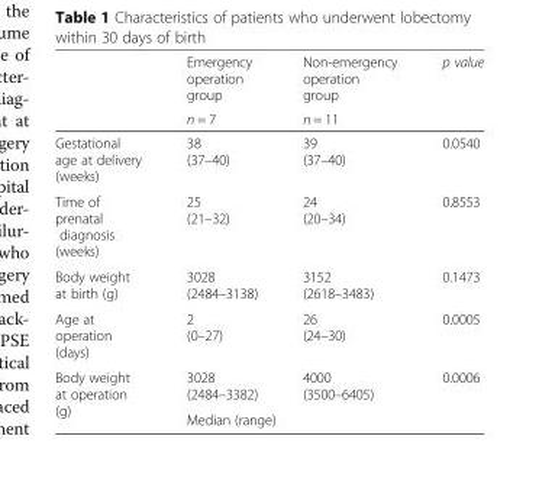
<table><thead><tr><td rowspan="2"></td><td rowspan="2">Emergency operation group n = 7</td><td rowspan="2">Non-emergency operation group n = 11</td><td rowspan="2">p value</td></tr><tr></tr></thead><tbody><tr><td>Gestational age at delivery (weeks)</td><td>38 (37–40)</td><td>39 (37–40)</td><td>0.0540</td></tr><tr><td>Time of prenatal diagnosis (weeks)</td><td>25 (21–32)</td><td>24 (20–34)</td><td>0.8553</td></tr><tr><td>Body weight at birth (g)</td><td>3028 (2484–3138)</td><td>3152 (2618–3483)</td><td>0.1473</td></tr><tr><td>Age at operation (days)</td><td>2 (0–27)</td><td>26 (24–30)</td><td>0.0005</td></tr><tr><td rowspan="2">Body weight at operation (g)</td><td>3028 (2484–3382)</td><td>4000 (3500–6405)</td><td>0.0006</td></tr><tr><td colspan="3">Median (range)</td></tr></tbody></table>